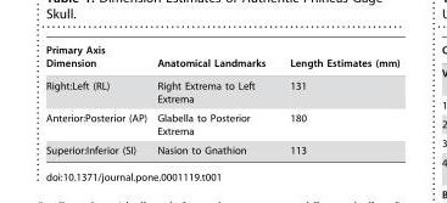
<table><thead><tr><td>Primary Axis Dimension</td><td>Anatomical Landmarks</td><td>Length Estimates (mm)</td></tr></thead><tbody><tr><td>Right:Left (RL)</td><td>Right Extrema to Left Extrema</td><td>131</td></tr><tr><td>Anterior:Posterior (AP)</td><td>Glabella to Posterior Extrema</td><td>180</td></tr><tr><td>Superior:Inferior (SI)</td><td>Nasion to Gnathion</td><td>113</td></tr></tbody></table>